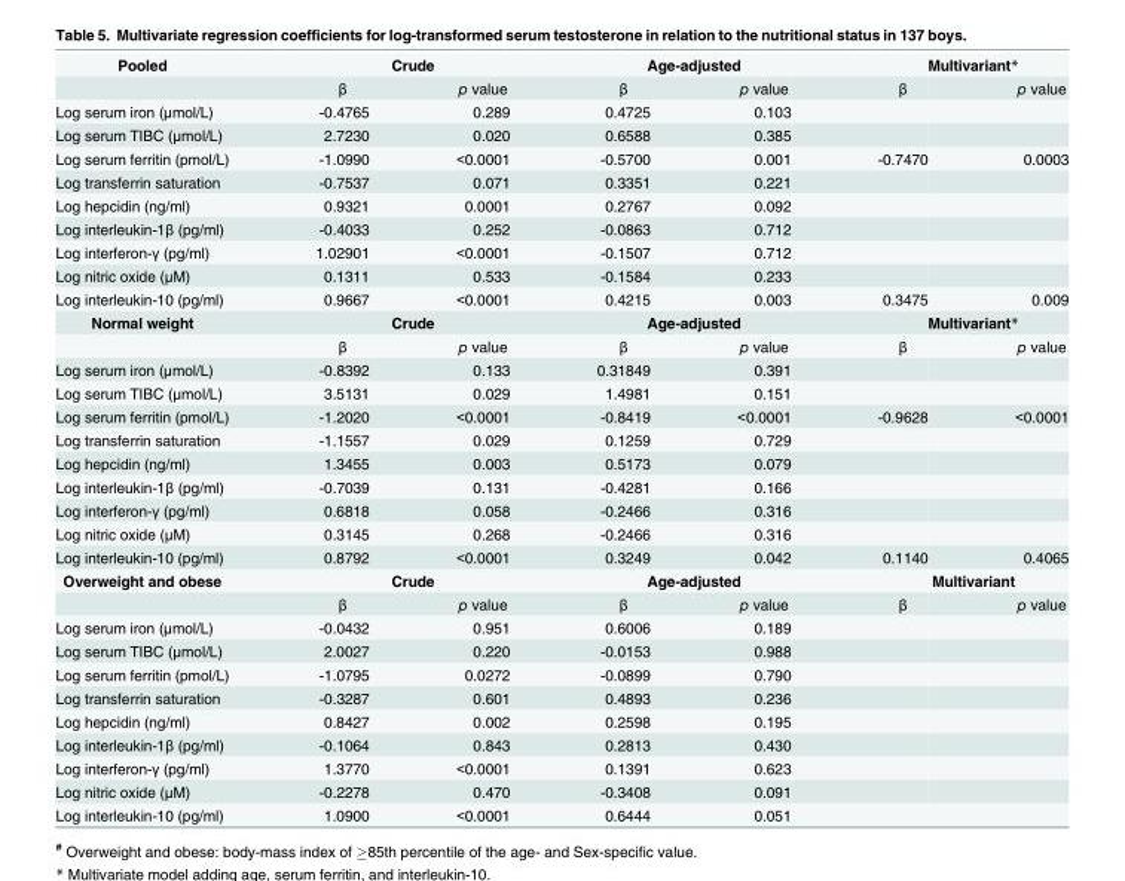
<table><tbody><tr><td rowspan="2">Pooled</td><td colspan="2">Crude</td><td colspan="2">Age-adjusted</td><td colspan="2">Multivariant*</td></tr><tr><td>β</td><td>p value</td><td>β</td><td>p value</td><td>β</td><td>p value</td></tr><tr><td>Log serum iron (μmol/L)</td><td>-0.4765</td><td>0.289</td><td>0.4725</td><td>0.103</td><td></td><td></td></tr><tr><td>Log serum TIBC (μmol/L)</td><td>2.7230</td><td>0.020</td><td>0.6588</td><td>0.385</td><td></td><td></td></tr><tr><td>Log serum ferritin (pmol/L)</td><td>-1.0990</td><td>&lt;0.0001</td><td>-0.5700</td><td>0.001</td><td>-0.7470</td><td>0.0003</td></tr><tr><td>Log transferrin saturation</td><td>-0.7537</td><td>0.071</td><td>0.3351</td><td>0.221</td><td></td><td></td></tr><tr><td>Log hepcidin (ng/ml)</td><td>0.9321</td><td>0.0001</td><td>0.2767</td><td>0.092</td><td></td><td></td></tr><tr><td>Log interleukin-1β (pg/ml)</td><td>-0.4033</td><td>0.252</td><td>-0.0863</td><td>0.712</td><td></td><td></td></tr><tr><td>Log interferon-γ (pg/ml)</td><td>1.02901</td><td>&lt;0.0001</td><td>-0.1507</td><td>0.712</td><td></td><td></td></tr><tr><td>Log nitric oxide (μM)</td><td>0.1311</td><td>0.533</td><td>-0.1584</td><td>0.233</td><td></td><td></td></tr><tr><td>Log interleukin-10 (pg/ml)</td><td>0.9667</td><td>&lt;0.0001</td><td>0.4215</td><td>0.003</td><td>0.3475</td><td>0.009</td></tr><tr><td rowspan="2">Normal weight</td><td colspan="2">Crude</td><td colspan="2">Age-adjusted</td><td colspan="2">Multivariant*</td></tr><tr><td>β</td><td>p value</td><td>β</td><td>p value</td><td>β</td><td>p value</td></tr><tr><td>Log serum iron (μmol/L)</td><td>-0.8392</td><td>0.133</td><td>0.31849</td><td>0.391</td><td></td><td></td></tr><tr><td>Log serum TIBC (μmol/L)</td><td>3.5131</td><td>0.029</td><td>1.4981</td><td>0.151</td><td></td><td></td></tr><tr><td>Log serum ferritin (pmol/L)</td><td>-1.2020</td><td>&lt;0.0001</td><td>-0.8419</td><td>&lt;0.0001</td><td>-0.9628</td><td>&lt;0.0001</td></tr><tr><td>Log transferrin saturation</td><td>-1.1557</td><td>0.029</td><td>0.1259</td><td>0.729</td><td></td><td></td></tr><tr><td>Log hepcidin (ng/ml)</td><td>1.3455</td><td>0.003</td><td>0.5173</td><td>0.079</td><td></td><td></td></tr><tr><td>Log interleukin-1β (pg/ml)</td><td>-0.7039</td><td>0.131</td><td>-0.4281</td><td>0.166</td><td></td><td></td></tr><tr><td>Log interferon-γ (pg/ml)</td><td>0.6818</td><td>0.058</td><td>-0.2466</td><td>0.316</td><td></td><td></td></tr><tr><td>Log nitric oxide (μM)</td><td>0.3145</td><td>0.268</td><td>-0.2466</td><td>0.316</td><td></td><td></td></tr><tr><td>Log interleukin-10 (pg/ml)</td><td>0.8792</td><td>&lt;0.0001</td><td>0.3249</td><td>0.042</td><td>0.1140</td><td>0.4065</td></tr><tr><td rowspan="2">Overweight and obese</td><td colspan="2">Crude</td><td colspan="2">Age-adjusted</td><td colspan="2">Multivariant</td></tr><tr><td>β</td><td>p value</td><td>β</td><td>p value</td><td>β</td><td>p value</td></tr><tr><td>Log serum iron (μmol/L)</td><td>-0.0432</td><td>0.951</td><td>0.6006</td><td>0.189</td><td></td><td></td></tr><tr><td>Log serum TIBC (μmol/L)</td><td>2.0027</td><td>0.220</td><td>-0.0153</td><td>0.988</td><td></td><td></td></tr><tr><td>Log serum ferritin (pmol/L)</td><td>-1.0795</td><td>0.0272</td><td>-0.0899</td><td>0.790</td><td></td><td></td></tr><tr><td>Log transferrin saturation</td><td>-0.3287</td><td>0.601</td><td>0.4893</td><td>0.236</td><td></td><td></td></tr><tr><td>Log hepcidin (ng/ml)</td><td>0.8427</td><td>0.002</td><td>0.2598</td><td>0.195</td><td></td><td></td></tr><tr><td>Log interleukin-1β (pg/ml)</td><td>-0.1064</td><td>0.843</td><td>0.2813</td><td>0.430</td><td></td><td></td></tr><tr><td>Log interferon-γ (pg/ml)</td><td>1.3770</td><td>&lt;0.0001</td><td>0.1391</td><td>0.623</td><td></td><td></td></tr><tr><td>Log nitric oxide (μM)</td><td>-0.2278</td><td>0.470</td><td>-0.3408</td><td>0.091</td><td></td><td></td></tr><tr><td>Log interleukin-10 (pg/ml)</td><td>1.0900</td><td>&lt;0.0001</td><td>0.6444</td><td>0.051</td><td></td><td></td></tr></tbody></table>